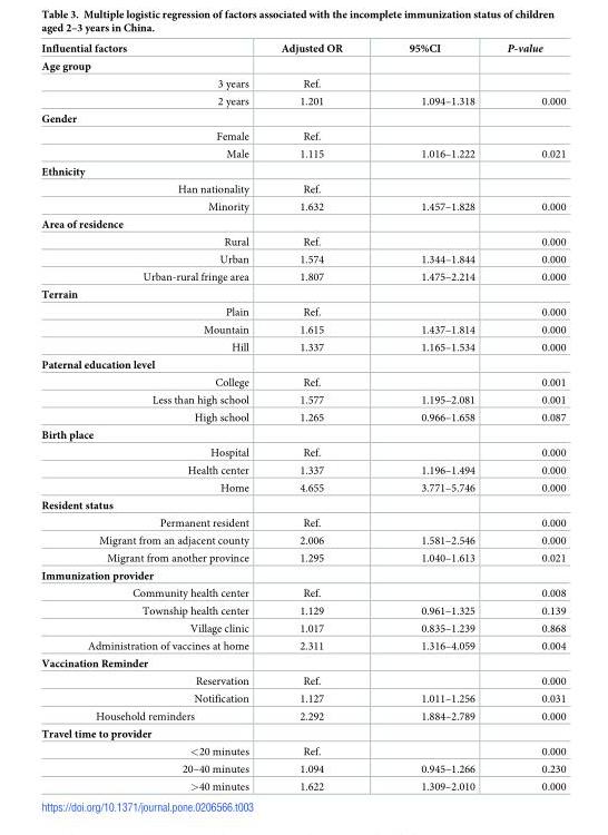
<table><thead><tr><td>Influential factors</td><td>Adjusted OR</td><td>95%CI</td><td>P-value</td></tr></thead><tbody><tr><td colspan="4">Age group</td></tr><tr><td>3 years</td><td>Ref.</td><td></td><td></td></tr><tr><td>2 years</td><td>1.201</td><td>1.094–1.318</td><td>0.000</td></tr><tr><td colspan="4">Gender</td></tr><tr><td>Female</td><td>Ref.</td><td></td><td></td></tr><tr><td>Male</td><td>1.115</td><td>1.016–1.222</td><td>0.021</td></tr><tr><td colspan="4">Ethnicity</td></tr><tr><td>Han nationality</td><td>Ref.</td><td></td><td></td></tr><tr><td>Minority</td><td>1.632</td><td>1.457–1.828</td><td>0.000</td></tr><tr><td colspan="4">Area of residence</td></tr><tr><td>Rural</td><td>Ref.</td><td></td><td>0.000</td></tr><tr><td>Urban</td><td>1.574</td><td>1.344–1.844</td><td>0.000</td></tr><tr><td>Urban-rural fringe area</td><td>1.807</td><td>1.475–2.214</td><td>0.000</td></tr><tr><td colspan="4">Terrain</td></tr><tr><td>Plain</td><td>Ref.</td><td></td><td>0.000</td></tr><tr><td>Mountain</td><td>1.615</td><td>1.437–1.814</td><td>0.000</td></tr><tr><td>Hill</td><td>1.337</td><td>1.165–1.534</td><td>0.000</td></tr><tr><td colspan="4">Paternal education level</td></tr><tr><td>College</td><td>Ref.</td><td></td><td>0.001</td></tr><tr><td>Less than high school</td><td>1.577</td><td>1.195–2.081</td><td>0.001</td></tr><tr><td>High school</td><td>1.265</td><td>0.966–1.658</td><td>0.087</td></tr><tr><td colspan="4">Birth place</td></tr><tr><td>Hospital</td><td>Ref.</td><td></td><td>0.000</td></tr><tr><td>Health center</td><td>1.337</td><td>1.196–1.494</td><td>0.000</td></tr><tr><td>Home</td><td>4.655</td><td>3.771–5.746</td><td>0.000</td></tr><tr><td colspan="4">Resident status</td></tr><tr><td>Permanent resident</td><td>Ref.</td><td></td><td>0.000</td></tr><tr><td>Migrant from an adjacent county</td><td>2.006</td><td>1.581–2.546</td><td>0.000</td></tr><tr><td>Migrant from another province</td><td>1.295</td><td>1.040–1.613</td><td>0.021</td></tr><tr><td colspan="4">Immunization provider</td></tr><tr><td>Community health center</td><td>Ref.</td><td></td><td>0.008</td></tr><tr><td>Township health center</td><td>1.129</td><td>0.961–1.325</td><td>0.139</td></tr><tr><td>Village clinic</td><td>1.017</td><td>0.835–1.239</td><td>0.868</td></tr><tr><td>Administration of vaccines at home</td><td>2.311</td><td>1.316–4.059</td><td>0.004</td></tr><tr><td colspan="4">Vaccination Reminder</td></tr><tr><td>Reservation</td><td>Ref.</td><td></td><td>0.000</td></tr><tr><td>Notification</td><td>1.127</td><td>1.011–1.256</td><td>0.031</td></tr><tr><td>Household reminders</td><td>2.292</td><td>1.884–2.789</td><td>0.000</td></tr><tr><td colspan="4">Travel time to provider</td></tr><tr><td>&lt;20 minutes</td><td>Ref.</td><td></td><td>0.000</td></tr><tr><td>20–40 minutes</td><td>1.094</td><td>0.945–1.266</td><td>0.230</td></tr><tr><td>&gt;40 minutes</td><td>1.622</td><td>1.309–2.010</td><td>0.000</td></tr></tbody></table>